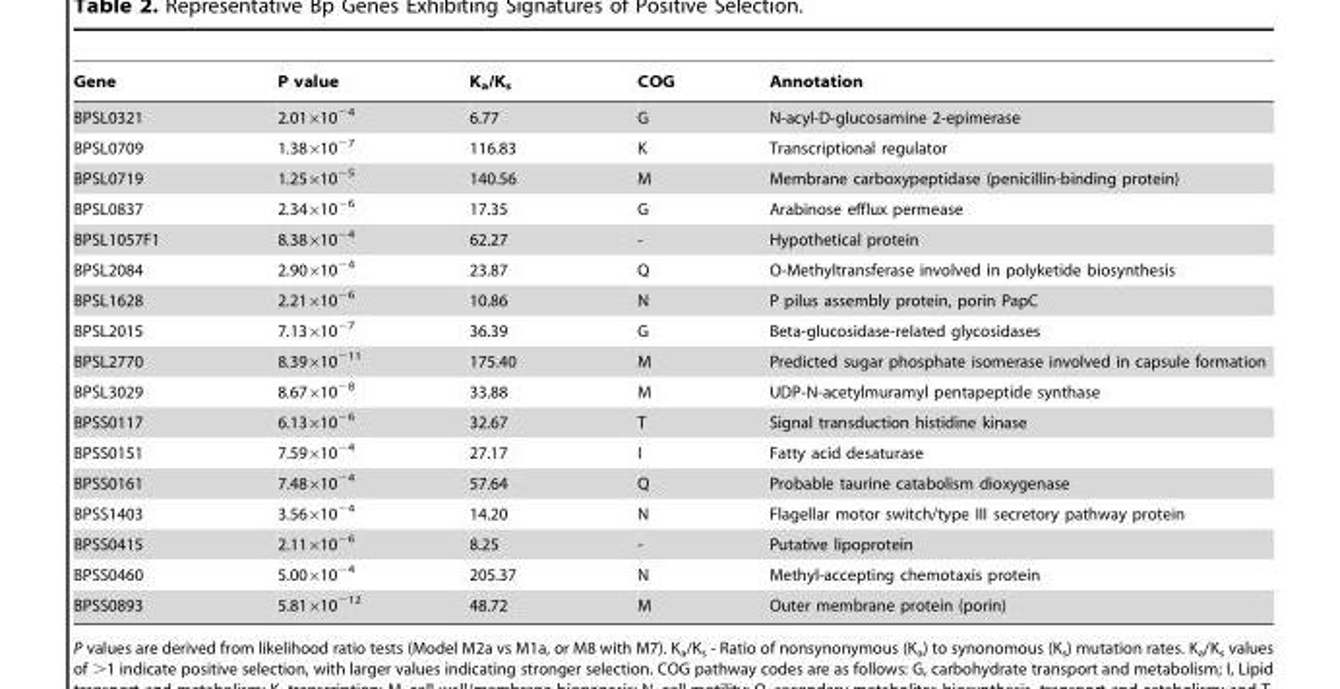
<table><thead><tr><td>Gene</td><td>P value</td><td>K<sub>a</sub>/K<sub>s</sub></td><td>COG</td><td>Annotation</td></tr></thead><tbody><tr><td>BPSL0321</td><td>2.01×10<sup>−4</sup></td><td>6.77</td><td>G</td><td>N-acyl-D-glucosamine 2-epimerase</td></tr><tr><td>BPSL0709</td><td>1.38×10<sup>−7</sup></td><td>116.83</td><td>K</td><td>Transcriptional regulator</td></tr><tr><td>BPSL0719</td><td>1.25×10<sup>−5</sup></td><td>140.56</td><td>M</td><td>Membrane carboxypeptidase (penicillin-binding protein)</td></tr><tr><td>BPSL0837</td><td>2.34×10<sup>−6</sup></td><td>17.35</td><td>G</td><td>Arabinose efflux permease</td></tr><tr><td>BPSL1057F1</td><td>8.38×10<sup>−4</sup></td><td>62.27</td><td>-</td><td>Hypothetical protein</td></tr><tr><td>BPSL2084</td><td>2.90×10<sup>−4</sup></td><td>23.87</td><td>Q</td><td>O-Methyltransferase involved in polyketide biosynthesis</td></tr><tr><td>BPSL1628</td><td>2.21×10<sup>−6</sup></td><td>10.86</td><td>N</td><td>P pilus assembly protein, porin PapC</td></tr><tr><td>BPSL2015</td><td>7.13×10<sup>−7</sup></td><td>36.39</td><td>G</td><td>Beta-glucosidase-related glycosidases</td></tr><tr><td>BPSL2770</td><td>8.39×10<sup>−11</sup></td><td>175.40</td><td>M</td><td>Predicted sugar phosphate isomerase involved in capsule formation</td></tr><tr><td>BPSL3029</td><td>8.67×10<sup>−8</sup></td><td>33.88</td><td>M</td><td>UDP-N-acetylmuramyl pentapeptide synthase</td></tr><tr><td>BPSS0117</td><td>6.13×10<sup>−6</sup></td><td>32.67</td><td>T</td><td>Signal transduction histidine kinase</td></tr><tr><td>BPSS0151</td><td>7.59×10<sup>−4</sup></td><td>27.17</td><td>I</td><td>Fatty acid desaturase</td></tr><tr><td>BPSS0161</td><td>7.48×10<sup>−4</sup></td><td>57.64</td><td>Q</td><td>Probable taurine catabolism dioxygenase</td></tr><tr><td>BPSS1403</td><td>3.56×10<sup>−4</sup></td><td>14.20</td><td>N</td><td>Flagellar motor switch/type III secretory pathway protein</td></tr><tr><td>BPSS0415</td><td>2.11×10<sup>−6</sup></td><td>8.25</td><td>-</td><td>Putative lipoprotein</td></tr><tr><td>BPSS0460</td><td>5.00×10<sup>−4</sup></td><td>205.37</td><td>N</td><td>Methyl-accepting chemotaxis protein</td></tr><tr><td>BPSS0893</td><td>5.81×10<sup>−12</sup></td><td>48.72</td><td>M</td><td>Outer membrane protein (porin)</td></tr></tbody></table>